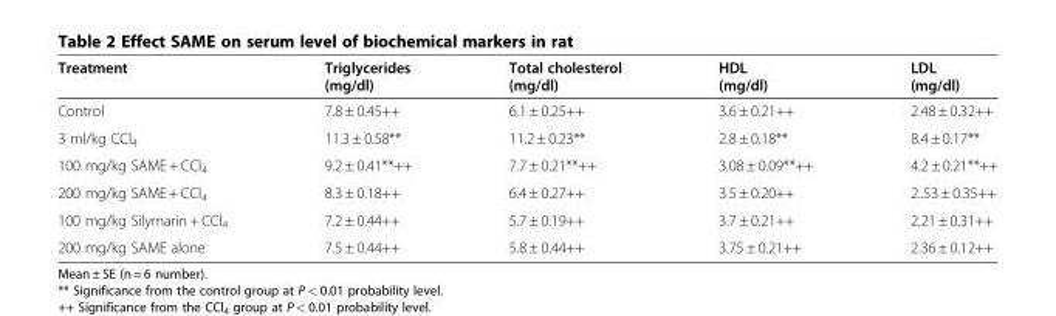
<table><thead><tr><td>Treatment</td><td>Triglycerides (mg/dl)</td><td>Total cholesterol (mg/dl)</td><td>HDL (mg/dl)</td><td>LDL (mg/dl)</td></tr></thead><tbody><tr><td>Control</td><td>7.8 ± 0.45++</td><td>6.1 ± 0.25++</td><td>3.6 ± 0.21++</td><td>2.48 ± 0.32++</td></tr><tr><td>3 ml/kg CCl<sub>4</sub></td><td>11.3 ± 0.58**</td><td>11.2 ± 0.23**</td><td>2.8 ± 0.18**</td><td>8.4 ± 0.17**</td></tr><tr><td>100 mg/kg SAME + CCl<sub>4</sub></td><td>9.2 ± 0.41**++</td><td>7.7 ± 0.21**++</td><td>3.08 ± 0.09**++</td><td>4.2 ± 0.21**++</td></tr><tr><td>200 mg/kg SAME + CCl<sub>4</sub></td><td>8.3 ± 0.18++</td><td>6.4 ± 0.27++</td><td>3.5 ± 0.20++</td><td>2..53 ± 0.35++</td></tr><tr><td>100 mg/kg Silymarin + CCl<sub>4</sub></td><td>7.2 ± 0.44++</td><td>5.7 ± 0.19++</td><td>3.7 ± 0.21++</td><td>2.21 ± 0.31++</td></tr><tr><td>200 mg/kg SAME alone</td><td>7.5 ± 0.44++</td><td>5.8 ± 0.44++</td><td>3.75 ± 0.21++</td><td>2.36 ± 0.12++</td></tr></tbody></table>